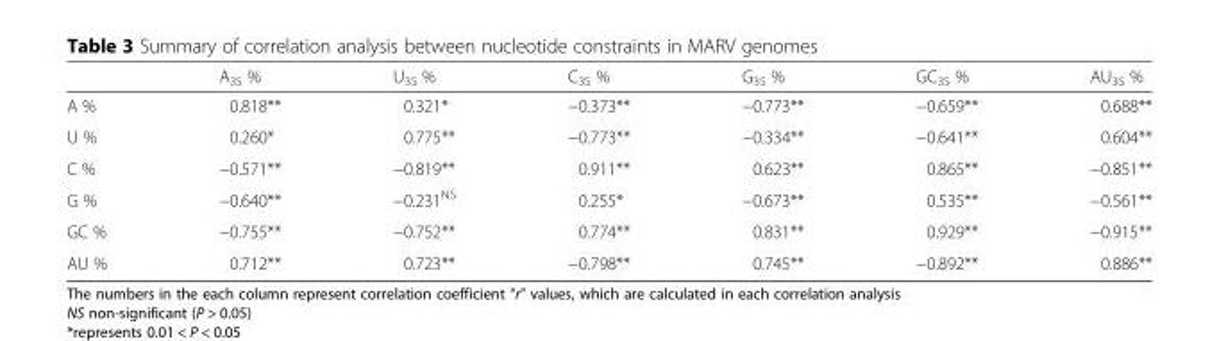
<table><thead><tr><td></td><td>A<sub>3S</sub> %</td><td>U<sub>3S</sub> %</td><td>C<sub>3S</sub> %</td><td>G<sub>3S</sub> %</td><td>GC<sub>3S</sub> %</td><td>AU<sub>3S</sub> %</td></tr></thead><tbody><tr><td>A %</td><td>0.818**</td><td>0.321*</td><td>−0.373**</td><td>−0.773**</td><td>−0.659**</td><td>0.688**</td></tr><tr><td>U %</td><td>0.260*</td><td>0.775**</td><td>−0.773**</td><td>−0.334**</td><td>−0.641**</td><td>0.604**</td></tr><tr><td>C %</td><td>−0.571**</td><td>−0.819**</td><td>0.911**</td><td>0.623**</td><td>0.865**</td><td>−0.851**</td></tr><tr><td>G %</td><td>−0.640**</td><td>−0.231<sup>NS</sup></td><td>0.255*</td><td>−0.673**</td><td>0.535**</td><td>−0.561**</td></tr><tr><td>GC %</td><td>−0.755**</td><td>−0.752**</td><td>0.774**</td><td>0.831**</td><td>0.929**</td><td>−0.915**</td></tr><tr><td>AU %</td><td>0.712**</td><td>0.723**</td><td>−0.798**</td><td>0.745**</td><td>−0.892**</td><td>0.886**</td></tr></tbody></table>